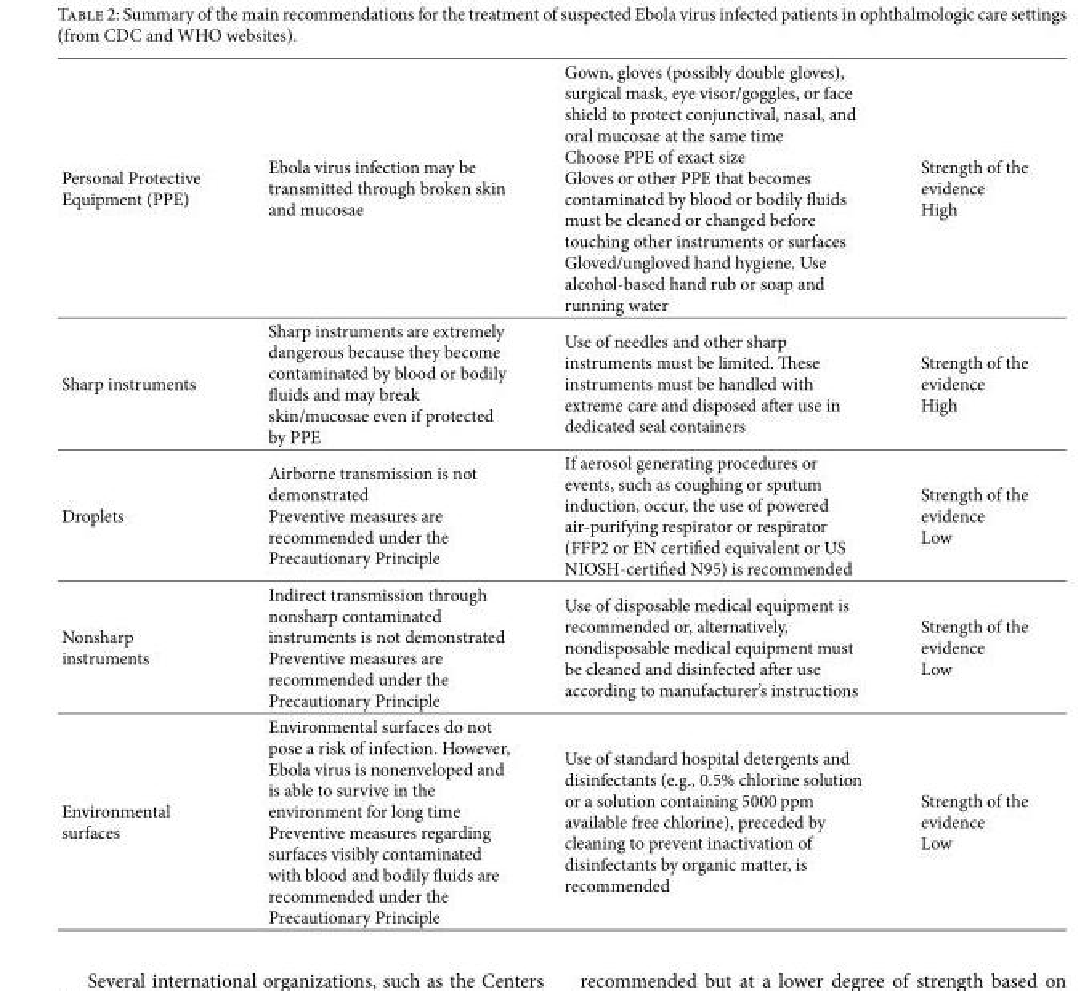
<table><tbody><tr><td>Personal Protective Equipment (PPE)</td><td>Ebola virus infection may be transmitted through broken skin and mucosae</td><td>Gown, gloves (possibly double gloves), surgical mask, eye visor/goggles, or face shield to protect conjunctival, nasal, and oral mucosae at the same time Choose PPE of exact size Gloves or other PPE that becomes contaminated by blood or bodily fluids must be cleaned or changed before touching other instruments or surfaces Gloved/ungloved hand hygiene. Use alcohol-based hand rub or soap and running water</td><td>Strength of the evidence High</td></tr><tr><td>Sharp instruments</td><td>Sharp instruments are extremely dangerous because they become contaminated by blood or bodily fluids and may break skin/mucosae even if protected by PPE</td><td>Use of needles and other sharp instruments must be limited. These instruments must be handled with extreme care and disposed after use in dedicated seal containers</td><td>Strength of the evidence High</td></tr><tr><td>Droplets</td><td>Airborne transmission is not demonstrated Preventive measures are recommended under the Precautionary Principle</td><td>If aerosol generating procedures or events, such as coughing or sputum induction, occur, the use of powered air-purifying respirator or respirator (FFP2 or EN certified equivalent or US NIOSH-certified N95) is recommended</td><td>Strength of the evidence Low</td></tr><tr><td>Nonsharp instruments</td><td>Indirect transmission through nonsharp contaminated instruments is not demonstrated Preventive measures are recommended under the Precautionary Principle</td><td>Use of disposable medical equipment is recommended or, alternatively, nondisposable medical equipment must be cleaned and disinfected after use according to manufacturer’s instructions</td><td>Strength of the evidence Low</td></tr><tr><td>Environmental surfaces</td><td>Environmental surfaces do not pose a risk of infection. However, Ebola virus is nonenveloped and is able to survive in the environment for long time Preventive measures regarding surfaces visibly contaminated with blood and bodily fluids are recommended under the Precautionary Principle</td><td>Use of standard hospital detergents and disinfectants (e.g., 0.5% chlorine solution or a solution containing 5000 ppm available free chlorine), preceded by cleaning to prevent inactivation of disinfectants by organic matter, is recommended</td><td>Strength of the evidence Low</td></tr></tbody></table>